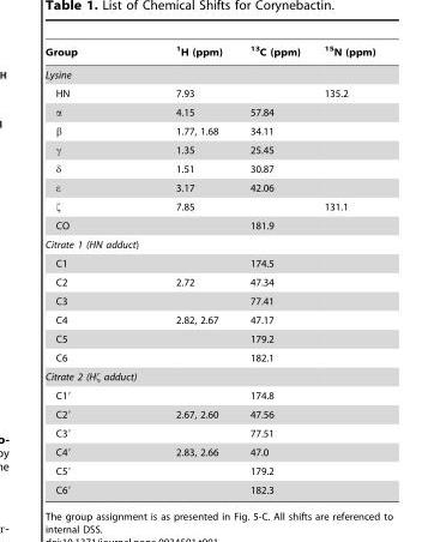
<table><thead><tr><td>Group</td><td><sup>1</sup>H (ppm)</td><td><sup>13</sup>C (ppm)</td><td><sup>15</sup>N (ppm)</td></tr></thead><tbody><tr><td colspan="4">Lysine</td></tr><tr><td>HN</td><td>7.93</td><td></td><td>135.2</td></tr><tr><td>α</td><td>4.15</td><td>57.84</td><td></td></tr><tr><td>β</td><td>1.77, 1.68</td><td>34.11</td><td></td></tr><tr><td>γ</td><td>1.35</td><td>25.45</td><td></td></tr><tr><td>δ</td><td>1.51</td><td>30.87</td><td></td></tr><tr><td>ε</td><td>3.17</td><td>42.06</td><td></td></tr><tr><td>ζ</td><td>7.85</td><td></td><td>131.1</td></tr><tr><td>CO</td><td></td><td>181.9</td><td></td></tr><tr><td colspan="4">Citrate 1 (HN adduct)</td></tr><tr><td>C1</td><td></td><td>174.5</td><td></td></tr><tr><td>C2</td><td>2.72</td><td>47.34</td><td></td></tr><tr><td>C3</td><td></td><td>77.41</td><td></td></tr><tr><td>C4</td><td>2.82, 2.67</td><td>47.17</td><td></td></tr><tr><td>C5</td><td></td><td>179.2</td><td></td></tr><tr><td>C6</td><td></td><td>182.1</td><td></td></tr><tr><td colspan="4">Citrate 2 (Hζ adduct)</td></tr><tr><td>C1′</td><td></td><td>174.8</td><td></td></tr><tr><td>C2′</td><td>2.67, 2.60</td><td>47.56</td><td></td></tr><tr><td>C3′</td><td></td><td>77.51</td><td></td></tr><tr><td>C4′</td><td>2.83, 2.66</td><td>47.0</td><td></td></tr><tr><td>C5′</td><td></td><td>179.2</td><td></td></tr><tr><td>C6′</td><td></td><td>182.3</td><td></td></tr></tbody></table>